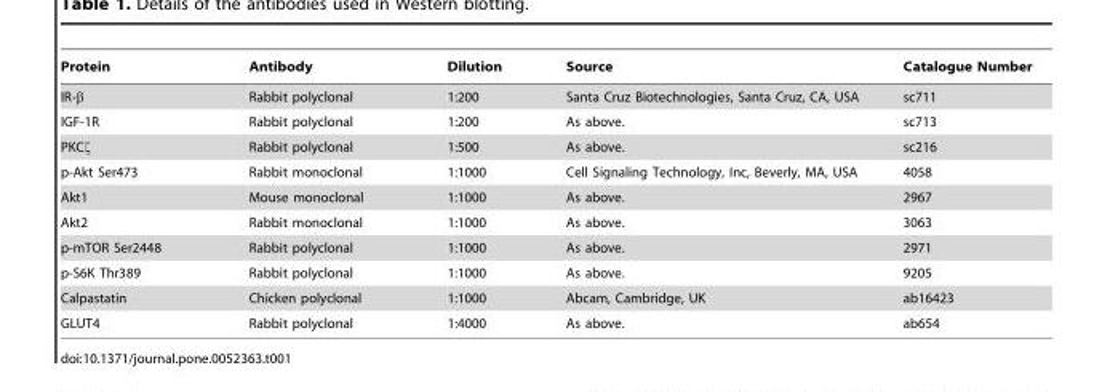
<table><thead><tr><td>Protein</td><td>Antibody</td><td>Dilution</td><td>Source</td><td>Catalogue Number</td></tr></thead><tbody><tr><td>IR-β</td><td>Rabbit polyclonal</td><td>1:200</td><td>Santa Cruz Biotechnologies, Santa Cruz, CA, USA</td><td>sc711</td></tr><tr><td>IGF-1R</td><td>Rabbit polyclonal</td><td>1:200</td><td>As above.</td><td>sc713</td></tr><tr><td>PKCζ</td><td>Rabbit polyclonal</td><td>1:500</td><td>As above.</td><td>sc216</td></tr><tr><td>p-Akt Ser473</td><td>Rabbit monoclonal</td><td>1:1000</td><td>Cell Signaling Technology, Inc, Beverly, MA, USA</td><td>4058</td></tr><tr><td>Akt1</td><td>Mouse monoclonal</td><td>1:1000</td><td>As above.</td><td>2967</td></tr><tr><td>Akt2</td><td>Rabbit monoclonal</td><td>1:1000</td><td>As above.</td><td>3063</td></tr><tr><td>p-mTOR Ser2448</td><td>Rabbit polyclonal</td><td>1:1000</td><td>As above.</td><td>2971</td></tr><tr><td>p-S6K Thr389</td><td>Rabbit polyclonal</td><td>1:1000</td><td>As above.</td><td>9205</td></tr><tr><td>Calpastatin</td><td>Chicken polyclonal</td><td>1:1000</td><td>Abcam, Cambridge, UK</td><td>ab16423</td></tr><tr><td>GLUT4</td><td>Rabbit polyclonal</td><td>1:4000</td><td>As above.</td><td>ab654</td></tr></tbody></table>